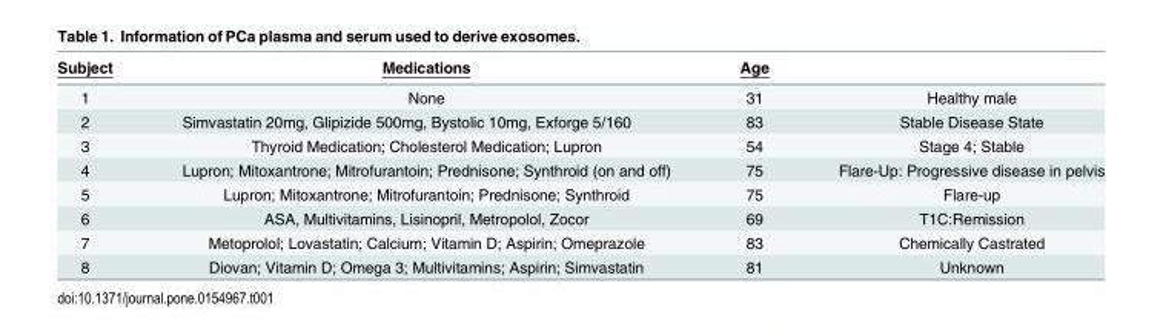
<table><thead><tr><td>Subject</td><td>Medications</td><td>Age</td><td></td></tr></thead><tbody><tr><td>1</td><td>None</td><td>31</td><td>Healthy male</td></tr><tr><td>2</td><td>Simvastatin 20mg, Glipizide 500mg, Bystolic 10mg, Exforge 5/160</td><td>83</td><td>Stable Disease State</td></tr><tr><td>3</td><td>Thyroid Medication; Cholesterol Medication; Lupron</td><td>54</td><td>Stage 4; Stable</td></tr><tr><td>4</td><td>Lupron; Mitoxantrone; Mitrofurantoin; Prednisone; Synthroid (on and off)</td><td>75</td><td>Flare-Up: Progressive disease in pelvis</td></tr><tr><td>5</td><td>Lupron; Mitoxantrone; Mitrofurantoin; Prednisone; Synthroid</td><td>75</td><td>Flare-up</td></tr><tr><td>6</td><td>ASA, Multivitamins, Lisinopril, Metropolol, Zocor</td><td>69</td><td>T1C:Remission</td></tr><tr><td>7</td><td>Metoprolol; Lovastatin; Calcium; Vitamin D; Aspirin; Omeprazole</td><td>83</td><td>Chemically Castrated</td></tr><tr><td>8</td><td>Diovan; Vitamin D; Omega 3; Multivitamins; Aspirin; Simvastatin</td><td>81</td><td>Unknown</td></tr></tbody></table>